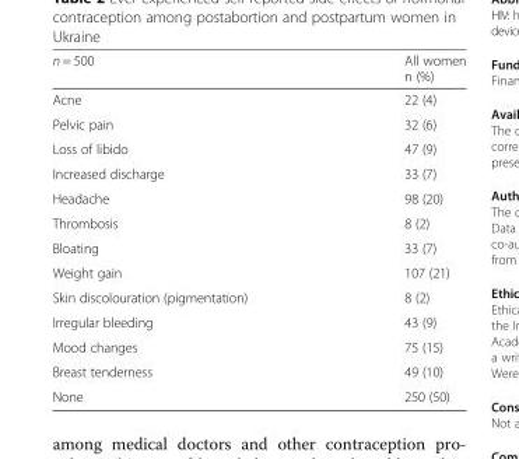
<table><thead><tr><td>n = 500</td><td>All women n (%)</td></tr></thead><tbody><tr><td>Acne</td><td>22 (4)</td></tr><tr><td>Pelvic pain</td><td>32 (6)</td></tr><tr><td>Loss of libido</td><td>47 (9)</td></tr><tr><td>Increased discharge</td><td>33 (7)</td></tr><tr><td>Headache</td><td>98 (20)</td></tr><tr><td>Thrombosis</td><td>8 (2)</td></tr><tr><td>Bloating</td><td>33 (7)</td></tr><tr><td>Weight gain</td><td>107 (21)</td></tr><tr><td>Skin discolouration (pigmentation)</td><td>8 (2)</td></tr><tr><td>Irregular bleeding</td><td>43 (9)</td></tr><tr><td>Mood changes</td><td>75 (15)</td></tr><tr><td>Breast tenderness</td><td>49 (10)</td></tr><tr><td>None</td><td>250 (50)</td></tr></tbody></table>